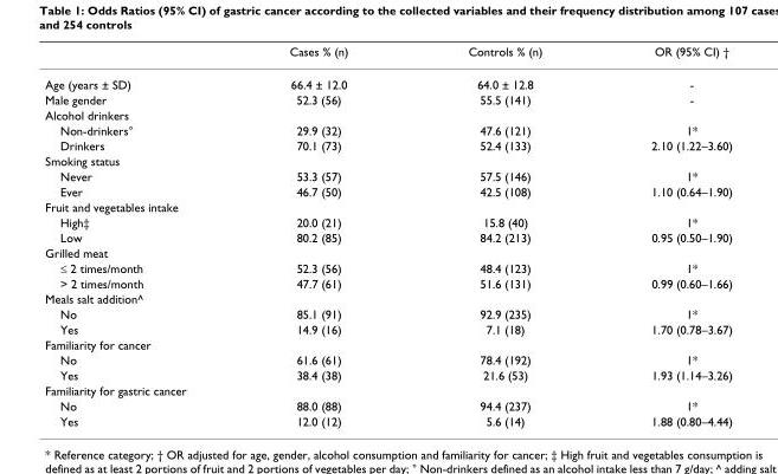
<table><thead><tr><td></td><td>Cases % (n)</td><td>Controls % (n)</td><td>OR (95% CI) †</td></tr></thead><tbody><tr><td>Age (years ± SD)</td><td>66.4 ± 12.0</td><td>64.0 ± 12.8</td><td>-</td></tr><tr><td>Male gender</td><td>52.3 (56)</td><td>55.5 (141)</td><td>-</td></tr><tr><td colspan="4">Alcohol drinkers</td></tr><tr><td>Non-drinkers°</td><td>29.9 (32)</td><td>47.6 (121)</td><td>1*</td></tr><tr><td>Drinkers</td><td>70.1 (73)</td><td>52.4 (133)</td><td>2.10 (1.22–3.60)</td></tr><tr><td colspan="4">Smoking status</td></tr><tr><td>Never</td><td>53.3 (57)</td><td>57.5 (146)</td><td>1*</td></tr><tr><td>Ever</td><td>46.7 (50)</td><td>42.5 (108)</td><td>1.10 (0.64–1.90)</td></tr><tr><td colspan="4">Fruit and vegetables intake</td></tr><tr><td>High‡</td><td>20.0 (21)</td><td>15.8 (40)</td><td>1*</td></tr><tr><td>Low</td><td>80.2 (85)</td><td>84.2 (213)</td><td>0.95 (0.50–1.90)</td></tr><tr><td colspan="4">Grilled meat</td></tr><tr><td>≤ 2 times/month</td><td>52.3 (56)</td><td>48.4 (123)</td><td>1*</td></tr><tr><td>&gt; 2 times/month</td><td>47.7 (61)</td><td>51.6 (131)</td><td>0.99 (0.60–1.66)</td></tr><tr><td colspan="4">Meals salt addition^</td></tr><tr><td>No</td><td>85.1 (91)</td><td>92.9 (235)</td><td>1*</td></tr><tr><td>Yes</td><td>14.9 (16)</td><td>7.1 (18)</td><td>1.70 (0.78–3.67)</td></tr><tr><td colspan="4">Familiarity for cancer</td></tr><tr><td>No</td><td>61.6 (61)</td><td>78.4 (192)</td><td>1*</td></tr><tr><td>Yes</td><td>38.4 (38)</td><td>21.6 (53)</td><td>1.93 (1.14–3.26)</td></tr><tr><td colspan="4">Familiarity for gastric cancer</td></tr><tr><td>No</td><td>88.0 (88)</td><td>94.4 (237)</td><td>1*</td></tr><tr><td>Yes</td><td>12.0 (12)</td><td>5.6 (14)</td><td>1.88 (0.80–4.44)</td></tr></tbody></table>